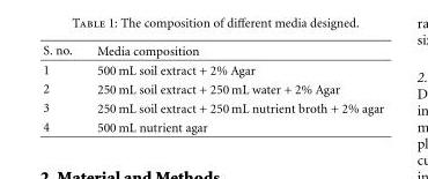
<table><thead><tr><td>S. no.</td><td>Media composition</td></tr></thead><tbody><tr><td>1</td><td>500 mL soil extract + 2% Agar</td></tr><tr><td>2</td><td>250 mL soil extract + 250 mL water + 2% Agar</td></tr><tr><td>3</td><td>250 mL soil extract + 250 mL nutrient broth + 2% agar</td></tr><tr><td>4</td><td>500 mL nutrient agar</td></tr></tbody></table>